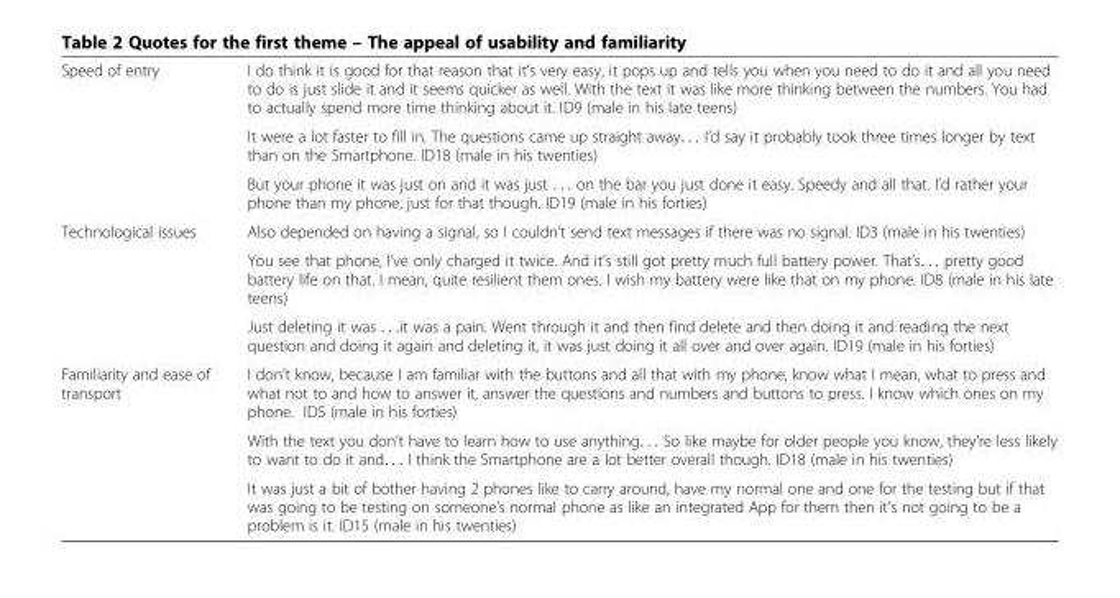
<table><tbody><tr><td rowspan="3">Speed of entry</td><td>I do think it is good for that reason that it’s very easy, it pops up and tells you when you need to do it and all you need to do is just slide it and it seems quicker as well. With the text it was like more thinking between the numbers. You had to actually spend more time thinking about it. ID9 (male in his late teens)</td></tr><tr><td>It were a lot faster to fill in. The questions came up straight away. . . I’d say it probably took three times longer by text than on the Smartphone. ID18 (male in his twenties)</td></tr><tr><td>But your phone it was just on and it was just . . . on the bar you just done it easy. Speedy and all that. I’d rather your phone than my phone, just for that though. ID19 (male in his forties)</td></tr><tr><td rowspan="3">Technological issues</td><td>Also depended on having a signal, so I couldn’t send text messages if there was no signal. ID3 (male in his twenties)</td></tr><tr><td>You see that phone, I’ve only charged it twice. And it’s still got pretty much full battery power. That’s. . . pretty good battery life on that. I mean, quite resilient them ones. I wish my battery were like that on my phone. ID8 (male in his late teens)</td></tr><tr><td>Just deleting it was . . .it was a pain. Went through it and then find delete and then doing it and reading the next question and doing it again and deleting it, it was just doing it all over and over again. ID19 (male in his forties)</td></tr><tr><td rowspan="3">Familiarity and ease of transport</td><td>I don’t know, because I am familiar with the buttons and all that with my phone, know what I mean, what to press and what not to and how to answer it, answer the questions and numbers and buttons to press. I know which ones on my phone. ID5 (male in his forties)</td></tr><tr><td>With the text you don’t have to learn how to use anything. . . So like maybe for older people you know, they’re less likely to want to do it and. . . I think the Smartphone are a lot better overall though. ID18 (male in his twenties)</td></tr><tr><td>It was just a bit of bother having 2 phones like to carry around, have my normal one and one for the testing but if that was going to be testing on someone’s normal phone as like an integrated App for them then it&#x27;s not going to be a problem is it. ID15 (male in his twenties)</td></tr></tbody></table>